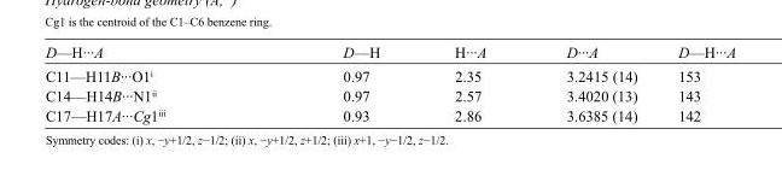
<table><tbody><tr><td>D—H···A</td><td>D—H</td><td>H···A</td><td>D···A</td><td>D—H···A</td></tr><tr><td>C11—H11B···O1<sup>i</sup></td><td>0.97</td><td>2.35</td><td>3.2415 (14)</td><td>153</td></tr><tr><td>C14—H14B···N1<sup>ii</sup></td><td>0.97</td><td>2.57</td><td>3.4020 (13)</td><td>143</td></tr><tr><td>C17—H17A···Cg1<sup>iii</sup></td><td>0.93</td><td>2.86</td><td>3.6385 (14)</td><td>142</td></tr></tbody></table>